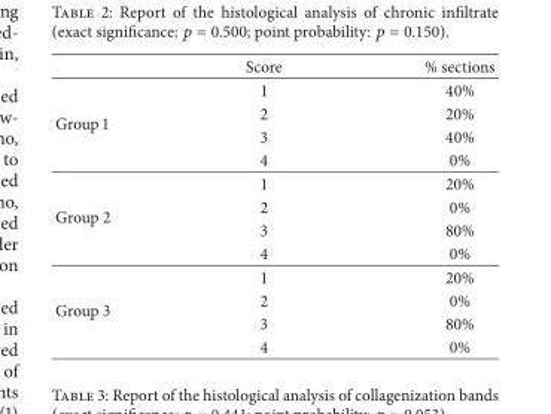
<table><thead><tr><td></td><td>Score</td><td>% sections</td></tr></thead><tbody><tr><td rowspan="4">Group 1</td><td>1</td><td>40%</td></tr><tr><td>2</td><td>20%</td></tr><tr><td>3</td><td>40%</td></tr><tr><td>4</td><td>0%</td></tr><tr><td rowspan="4">Group 2</td><td>1</td><td>20%</td></tr><tr><td>2</td><td>0%</td></tr><tr><td>3</td><td>80%</td></tr><tr><td>4</td><td>0%</td></tr><tr><td rowspan="4">Group 3</td><td>1</td><td>20%</td></tr><tr><td>2</td><td>0%</td></tr><tr><td>3</td><td>80%</td></tr><tr><td>4</td><td>0%</td></tr></tbody></table>